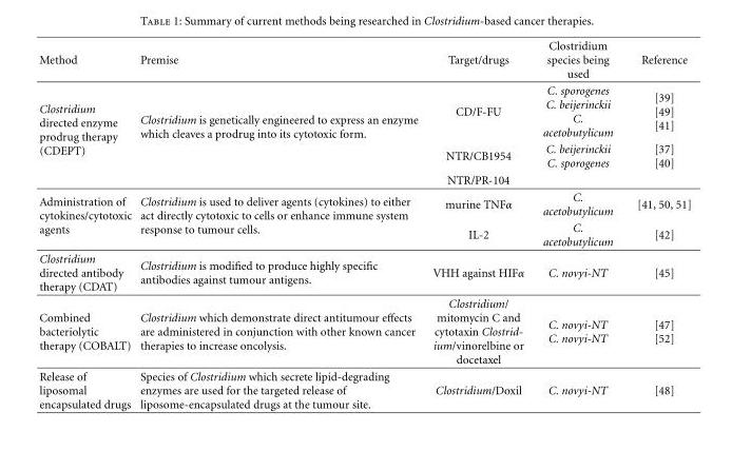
<table><thead><tr><td>Method</td><td>Premise</td><td>Target/drugs</td><td>Clostridium species being used</td><td>Reference</td></tr></thead><tbody><tr><td rowspan="3">Clostridium directed enzyme prodrug therapy (CDEPT)</td><td rowspan="3">Clostridium is genetically engineered to express an enzyme which cleaves a prodrug into its cytotoxic form.</td><td>CD/F-FU</td><td>C. sporogenes C. beijerinckii C. acetobutylicum</td><td>[39] [49] [41]</td></tr><tr><td>NTR/CB1954</td><td>C. beijerinckii C. sporogenes</td><td>[37] [40]</td></tr><tr><td>NTR/PR-104</td><td></td><td></td></tr><tr><td rowspan="2">Administration of cytokines/cytotoxic agents</td><td rowspan="2">Clostridium is used to deliver agents (cytokines) to either act directly cytotoxic to cells or enhance immune system response to tumour cells.</td><td>murine TNFα</td><td>C. acetobutylicum</td><td>[41, 50, 51]</td></tr><tr><td>IL-2</td><td>C. acetobutylicum</td><td>[42]</td></tr><tr><td>Clostridium directed antibody therapy (CDAT)</td><td>Clostridium is modified to produce highly specific antibodies against tumour antigens.</td><td>VHH against HIFα</td><td>C. novyi-NT</td><td>[45]</td></tr><tr><td>Combined bacteriolytic therapy (COBALT)</td><td>Clostridium which demonstrate direct antitumour effects are administered in conjunction with other known cancer therapies to increase oncolysis.</td><td>Clostridium/ mitomycin C and cytotaxin Clostrid- ium/vinorelbine or docetaxel</td><td>C. novyi-NT C. novyi-NT</td><td>[47] [52]</td></tr><tr><td>Release of liposomal encapsulated drugs</td><td>Species of Clostridium which secrete lipid-degrading enzymes are used for the targeted release of liposome-encapsulated drugs at the tumour site.</td><td>Clostridium/Doxil</td><td>C. novyi-NT</td><td>[48]</td></tr></tbody></table>